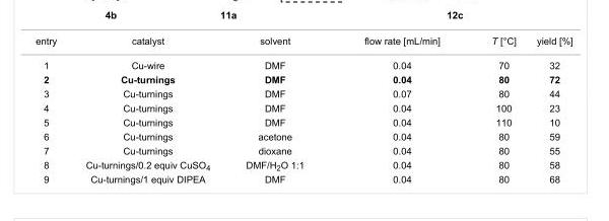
<table><tbody><tr><td>entry</td><td>catalyst</td><td>solvent</td><td>flow rate [mL/min]</td><td>T [°C]</td><td>yield [%]</td></tr><tr><td>1</td><td>Cu-wire</td><td>DMF</td><td>0.04</td><td>70</td><td>32</td></tr><tr><td>2</td><td>Cu-turnings</td><td>DMF</td><td>0.04</td><td>80</td><td>72</td></tr><tr><td>3</td><td>Cu-turnings</td><td>DMF</td><td>0.07</td><td>80</td><td>44</td></tr><tr><td>4</td><td>Cu-turnings</td><td>DMF</td><td>0.04</td><td>100</td><td>23</td></tr><tr><td>5</td><td>Cu-turnings</td><td>DMF</td><td>0.04</td><td>110</td><td>10</td></tr><tr><td>6</td><td>Cu-turnings</td><td>acetone</td><td>0.04</td><td>80</td><td>59</td></tr><tr><td>7</td><td>Cu-turnings</td><td>dioxane</td><td>0.04</td><td>80</td><td>55</td></tr><tr><td>8</td><td>Cu-turnings/0.2 equiv CuSO<sub>4</sub></td><td>DMF/H<sub>2</sub>O 1:1</td><td>0.04</td><td>80</td><td>58</td></tr><tr><td>9</td><td>Cu-turnings/1 equiv DIPEA</td><td>DMF</td><td>0.04</td><td>80</td><td>68</td></tr></tbody></table>